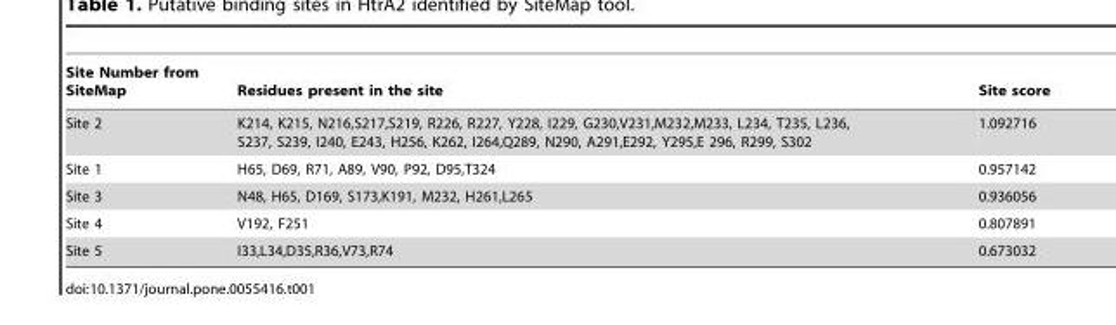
<table><thead><tr><td>Site Number from SiteMap</td><td>Residues present in the site</td><td>Site score</td></tr></thead><tbody><tr><td>Site 2</td><td>K214, K215, N216,S217,S219, R226, R227, Y228, I229, G230,V231,M232,M233, L234, T235, L236, S237, S239, I240, E243, H256, K262, I264,Q289, N290, A291,E292, Y295,E 296, R299, S302</td><td>1.092716</td></tr><tr><td>Site 1</td><td>H65, D69, R71, A89, V90, P92, D95,T324</td><td>0.957142</td></tr><tr><td>Site 3</td><td>N48, H65, D169, S173,K191, M232, H261,L265</td><td>0.936056</td></tr><tr><td>Site 4</td><td>V192, F251</td><td>0.807891</td></tr><tr><td>Site 5</td><td>I33,L34,D35,R36,V73,R74</td><td>0.673032</td></tr></tbody></table>